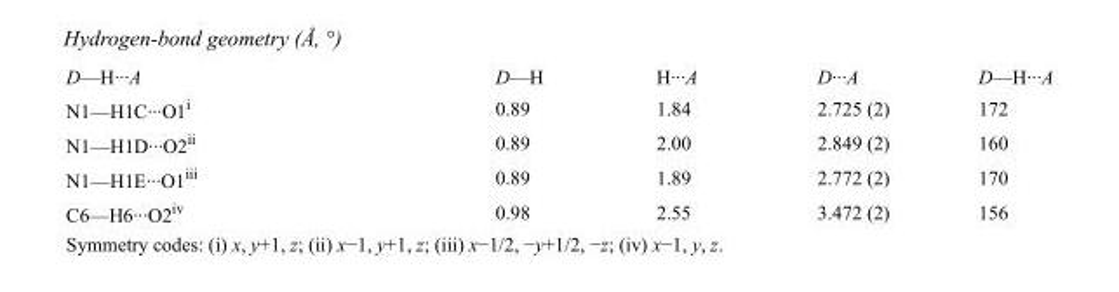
<table><tbody><tr><td>D—H···A</td><td>D—H</td><td>H···A</td><td>D···A</td><td>D—H···A</td></tr><tr><td>N1—H1C···O1<sup>i</sup></td><td>0.89</td><td>1.84</td><td>2.725 (2)</td><td>172</td></tr><tr><td>N1—H1D···O2<sup>ii</sup></td><td>0.89</td><td>2.00</td><td>2.849 (2)</td><td>160</td></tr><tr><td>N1—H1E···O1<sup>iii</sup></td><td>0.89</td><td>1.89</td><td>2.772 (2)</td><td>170</td></tr><tr><td>C6—H6···O2<sup>iv</sup></td><td>0.98</td><td>2.55</td><td>3.472 (2)</td><td>156</td></tr></tbody></table>